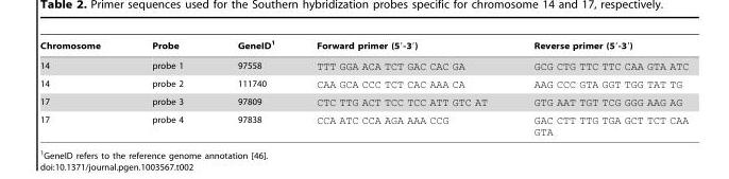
<table><thead><tr><td>Chromosome</td><td>Probe</td><td>GeneID<sup>1</sup></td><td>Forward primer (5′-3′)</td><td>Reverse primer (5′-3′)</td></tr></thead><tbody><tr><td>14</td><td>probe 1</td><td>97558</td><td>TTT GGA ACA TCT GAC CAC GA</td><td>GCG CTG TTC TTC CAA GTA ATC</td></tr><tr><td>14</td><td>probe 2</td><td>111740</td><td>CAA GCA CCC TCT CAC AAA CA</td><td>AAG CCC GTA GGT TGG TAT TG</td></tr><tr><td>17</td><td>probe 3</td><td>97809</td><td>CTC TTG ACT TCC TCC ATT GTC AT</td><td>GTG AAT TGT TCG GGG AAG AG</td></tr><tr><td>17</td><td>probe 4</td><td>97838</td><td>CCA ATC CCA AGA AAA CCG</td><td>GAC CTT TTG TGA GCT TCT CAA GTA</td></tr></tbody></table>